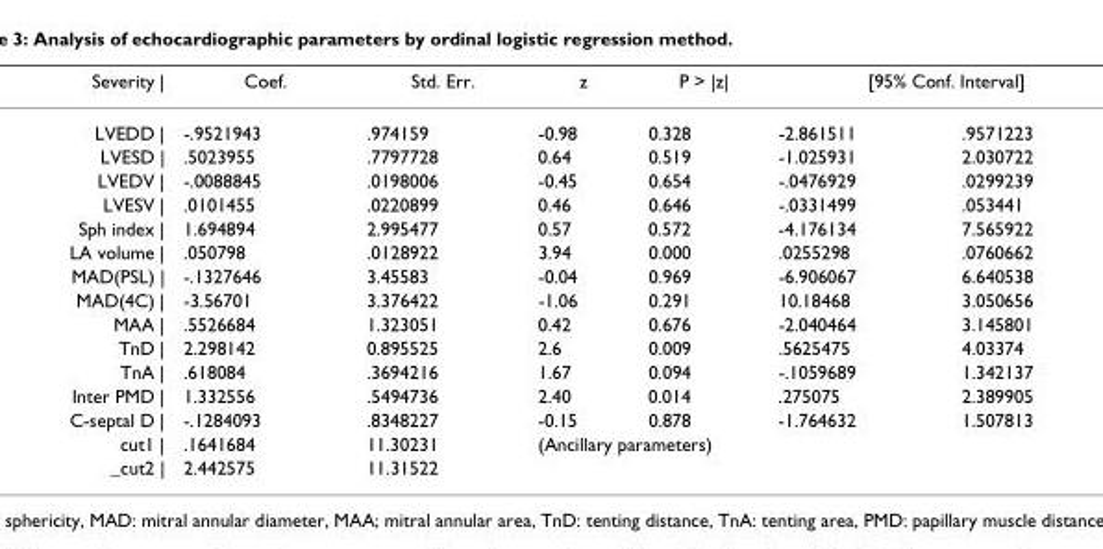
<table><thead><tr><td rowspan="2">Severity | LVEDD |</td><td rowspan="2">Coef. -.9521943</td><td rowspan="2">Std. Err. .974159</td><td rowspan="2">z -0.98</td><td rowspan="2">P &gt; |z| 0.328</td><td colspan="2">[95% Conf. Interval]</td></tr><tr><td>-2.861511</td><td>.9571223</td></tr></thead><tbody><tr><td>LVESD |</td><td>.5023955</td><td>.7797728</td><td>0.64</td><td>0.519</td><td>-1.025931</td><td>2.030722</td></tr><tr><td>LVEDV |</td><td>-.0088845</td><td>.0198006</td><td>-0.45</td><td>0.654</td><td>-.0476929</td><td>.0299239</td></tr><tr><td>LVESV |</td><td>.0101455</td><td>.0220899</td><td>0.46</td><td>0.646</td><td>-.0331499</td><td>.053441</td></tr><tr><td>Sph index |</td><td>1.694894</td><td>2.995477</td><td>0.57</td><td>0.572</td><td>-4.176134</td><td>7.565922</td></tr><tr><td>LA volume |</td><td>.050798</td><td>.0128922</td><td>3.94</td><td>0.000</td><td>.0255298</td><td>.0760662</td></tr><tr><td>MAD(PSL) |</td><td>-.1327646</td><td>3.45583</td><td>-0.04</td><td>0.969</td><td>-6.906067</td><td>6.640538</td></tr><tr><td>MAD(4C) |</td><td>-3.56701</td><td>3.376422</td><td>-1.06</td><td>0.291</td><td>10.18468</td><td>3.050656</td></tr><tr><td>MAA |</td><td>.5526684</td><td>1.323051</td><td>0.42</td><td>0.676</td><td>-2.040464</td><td>3.145801</td></tr><tr><td>TnD |</td><td>2.298142</td><td>0.895525</td><td>2.6</td><td>0.009</td><td>.5625475</td><td>4.03374</td></tr><tr><td>TnA |</td><td>.618084</td><td>.3694216</td><td>1.67</td><td>0.094</td><td>-.1059689</td><td>1.342137</td></tr><tr><td>Inter PMD |</td><td>1.332556</td><td>.5494736</td><td>2.40</td><td>0.014</td><td>.275075</td><td>2.389905</td></tr><tr><td>C-septal D |</td><td>-.1284093</td><td>.8348227</td><td>-0.15</td><td>0.878</td><td>-1.764632</td><td>1.507813</td></tr><tr><td>cut1 |</td><td>.1641684</td><td>11.30231</td><td colspan="4">(Ancillary parameters)</td></tr><tr><td>_cut2 |</td><td>2.442575</td><td>11.31522</td><td></td><td></td><td></td><td></td></tr></tbody></table>